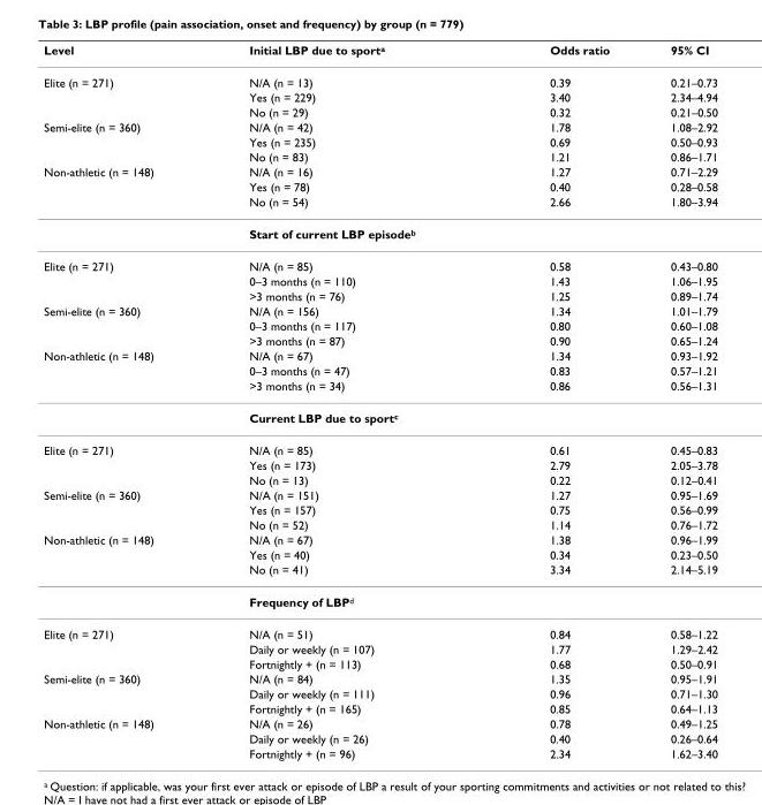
<table><thead><tr><td>Level</td><td>Initial LBP due to sporta</td><td>Odds ratio</td><td>95% CI</td></tr></thead><tbody><tr><td rowspan="3">Elite (n = 271)</td><td>N/A (n = 13)</td><td>0.39</td><td>0.21–0.73</td></tr><tr><td>Yes (n = 229)</td><td>3.40</td><td>2.34–4.94</td></tr><tr><td>No (n = 29)</td><td>0.32</td><td>0.21–0.50</td></tr><tr><td rowspan="3">Semi-elite (n = 360)</td><td>N/A (n = 42)</td><td>1.78</td><td>1.08–2.92</td></tr><tr><td>Yes (n = 235)</td><td>0.69</td><td>0.50–0.93</td></tr><tr><td>No (n = 83)</td><td>1.21</td><td>0.86–1.71</td></tr><tr><td rowspan="4">Non-athletic (n = 148)</td><td>N/A (n = 16)</td><td>1.27</td><td>0.71–2.29</td></tr><tr><td>Yes (n = 78)</td><td>0.40</td><td>0.28–0.58</td></tr><tr><td>No (n = 54)</td><td>2.66</td><td>1.80–3.94</td></tr><tr><td>Start of current LBP episodeb</td><td></td><td></td></tr><tr><td rowspan="3">Elite (n = 271)</td><td>N/A (n = 85)</td><td>0.58</td><td>0.43–0.80</td></tr><tr><td>0–3 months (n = 110)</td><td>1.43</td><td>1.06–1.95</td></tr><tr><td>&gt;3 months (n = 76)</td><td>1.25</td><td>0.89–1.74</td></tr><tr><td rowspan="3">Semi-elite (n = 360)</td><td>N/A (n = 156)</td><td>1.34</td><td>1.01–1.79</td></tr><tr><td>0–3 months (n = 117)</td><td>0.80</td><td>0.60–1.08</td></tr><tr><td>&gt;3 months (n = 87)</td><td>0.90</td><td>0.65–1.24</td></tr><tr><td rowspan="4">Non-athletic (n = 148)</td><td>N/A (n = 67)</td><td>1.34</td><td>0.93–1.92</td></tr><tr><td>0–3 months (n = 47)</td><td>0.83</td><td>0.57–1.21</td></tr><tr><td>&gt;3 months (n = 34)</td><td>0.86</td><td>0.56–1.31</td></tr><tr><td>Current LBP due to sportc</td><td></td><td></td></tr><tr><td rowspan="3">Elite (n = 271)</td><td>N/A (n = 85)</td><td>0.61</td><td>0.45–0.83</td></tr><tr><td>Yes (n = 173)</td><td>2.79</td><td>2.05–3.78</td></tr><tr><td>No (n = 13)</td><td>0.22</td><td>0.12–0.41</td></tr><tr><td rowspan="3">Semi-elite (n = 360)</td><td>N/A (n = 151)</td><td>1.27</td><td>0.95–1.69</td></tr><tr><td>Yes (n = 157)</td><td>0.75</td><td>0.56–0.99</td></tr><tr><td>No (n = 52)</td><td>1.14</td><td>0.76–1.72</td></tr><tr><td rowspan="4">Non-athletic (n = 148)</td><td>N/A (n = 67)</td><td>1.38</td><td>0.96–1.99</td></tr><tr><td>Yes (n = 40)</td><td>0.34</td><td>0.23–0.50</td></tr><tr><td>No (n = 41)</td><td>3.34</td><td>2.14–5.19</td></tr><tr><td>Frequency of LBPd</td><td></td><td></td></tr><tr><td rowspan="3">Elite (n = 271)</td><td>N/A (n = 51)</td><td>0.84</td><td>0.58–1.22</td></tr><tr><td>Daily or weekly (n = 107)</td><td>1.77</td><td>1.29–2.42</td></tr><tr><td>Fortnightly + (n = 113)</td><td>0.68</td><td>0.50–0.91</td></tr><tr><td rowspan="3">Semi-elite (n = 360)</td><td>N/A (n = 84)</td><td>1.35</td><td>0.95–1.91</td></tr><tr><td>Daily or weekly (n = 111)</td><td>0.96</td><td>0.71–1.30</td></tr><tr><td>Fortnightly + (n = 165)</td><td>0.85</td><td>0.64–1.13</td></tr><tr><td rowspan="3">Non-athletic (n = 148)</td><td>N/A (n = 26)</td><td>0.78</td><td>0.49–1.25</td></tr><tr><td>Daily or weekly (n = 26)</td><td>0.40</td><td>0.26–0.64</td></tr><tr><td>Fortnightly + (n = 96)</td><td>2.34</td><td>1.62–3.40</td></tr></tbody></table>